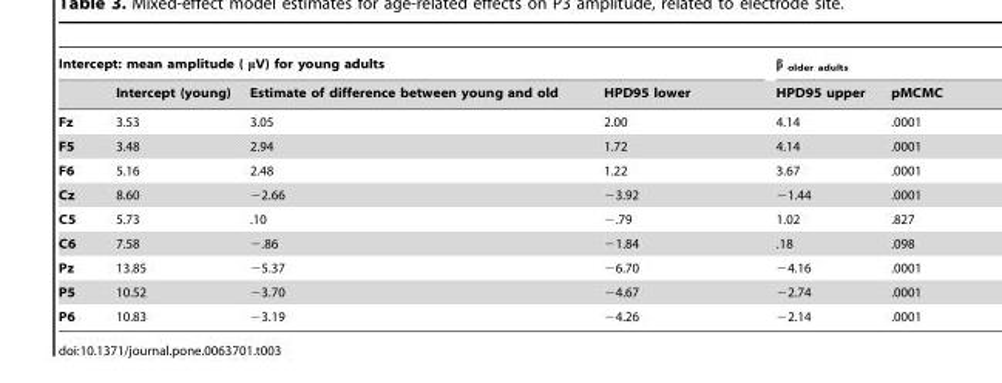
<table><thead><tr><td colspan="4">Intercept: mean amplitude ( μV) for young adults</td><td colspan="2">β <sub>older adults</sub></td></tr><tr><td></td><td>Intercept (young)</td><td>Estimate of difference between young and old</td><td>HPD95 lower</td><td>HPD95 upper</td><td>pMCMC</td></tr></thead><tbody><tr><td>Fz</td><td>3.53</td><td>3.05</td><td>2.00</td><td>4.14</td><td>.0001</td></tr><tr><td>F5</td><td>3.48</td><td>2.94</td><td>1.72</td><td>4.14</td><td>.0001</td></tr><tr><td>F6</td><td>5.16</td><td>2.48</td><td>1.22</td><td>3.67</td><td>.0001</td></tr><tr><td>Cz</td><td>8.60</td><td>−2.66</td><td>−3.92</td><td>−1.44</td><td>.0001</td></tr><tr><td>C5</td><td>5.73</td><td>.10</td><td>−.79</td><td>1.02</td><td>.827</td></tr><tr><td>C6</td><td>7.58</td><td>−.86</td><td>−1.84</td><td>.18</td><td>.098</td></tr><tr><td>Pz</td><td>13.85</td><td>−5.37</td><td>−6.70</td><td>−4.16</td><td>.0001</td></tr><tr><td>P5</td><td>10.52</td><td>−3.70</td><td>−4.67</td><td>−2.74</td><td>.0001</td></tr><tr><td>P6</td><td>10.83</td><td>−3.19</td><td>−4.26</td><td>−2.14</td><td>.0001</td></tr></tbody></table>